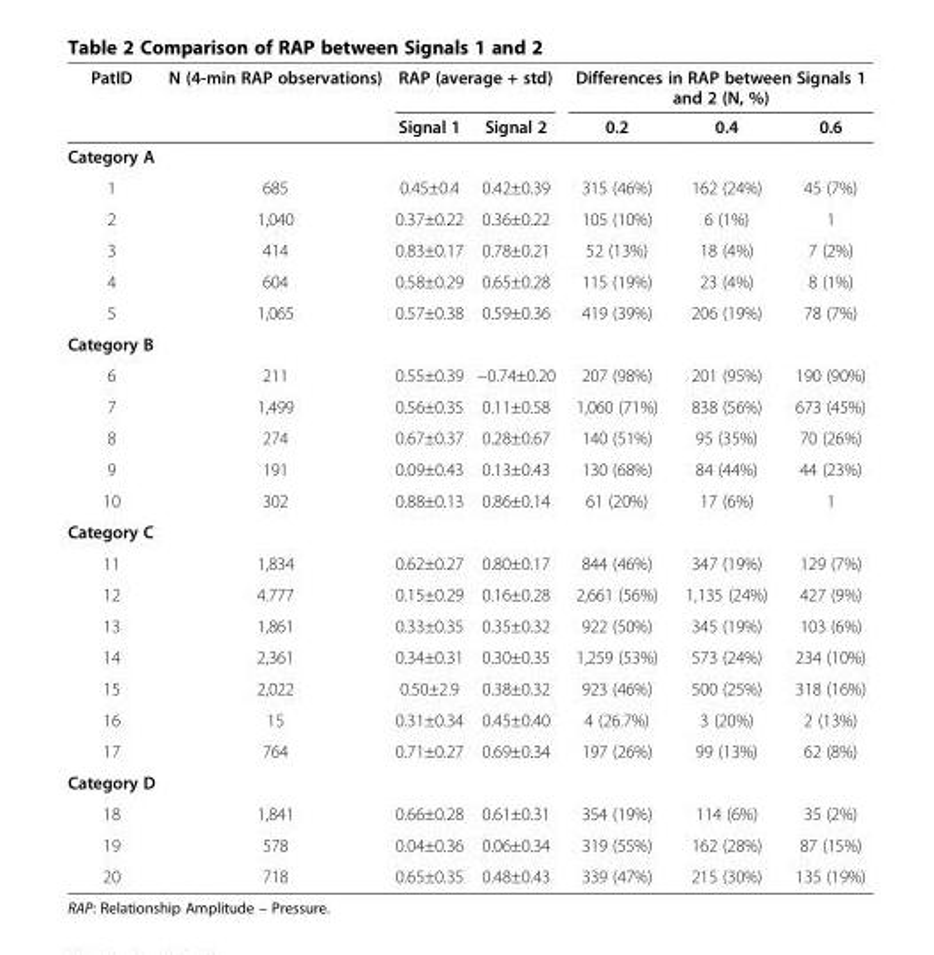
<table><thead><tr><td rowspan="2">PatID</td><td rowspan="2">N (4-min RAP observations)</td><td colspan="2">RAP (average + std)</td><td colspan="3">Differences in RAP between Signals 1 and 2 (N, %)</td></tr><tr><td>Signal 1</td><td>Signal 2</td><td>0.2</td><td>0.4</td><td>0.6</td></tr></thead><tbody><tr><td colspan="7">Category A</td></tr><tr><td>1</td><td>685</td><td>0.45±0.4</td><td>0.42±0.39</td><td>315 (46%)</td><td>162 (24%)</td><td>45 (7%)</td></tr><tr><td>2</td><td>1,040</td><td>0.37±0.22</td><td>0.36±0.22</td><td>105 (10%)</td><td>6 (1%)</td><td>1</td></tr><tr><td>3</td><td>414</td><td>0.83±0.17</td><td>0.78±0.21</td><td>52 (13%)</td><td>18 (4%)</td><td>7 (2%)</td></tr><tr><td>4</td><td>604</td><td>0.58±0.29</td><td>0.65±0.28</td><td>115 (19%)</td><td>23 (4%)</td><td>8 (1%)</td></tr><tr><td>5</td><td>1,065</td><td>0.57±0.38</td><td>0.59±0.36</td><td>419 (39%)</td><td>206 (19%)</td><td>78 (7%)</td></tr><tr><td colspan="7">Category B</td></tr><tr><td>6</td><td>211</td><td>0.55±0.39</td><td>−0.74±0.20</td><td>207 (98%)</td><td>201 (95%)</td><td>190 (90%)</td></tr><tr><td>7</td><td>1,499</td><td>0.56±0.35</td><td>0.11±0.58</td><td>1,060 (71%)</td><td>838 (56%)</td><td>673 (45%)</td></tr><tr><td>8</td><td>274</td><td>0.67±0.37</td><td>0.28±0.67</td><td>140 (51%)</td><td>95 (35%)</td><td>70 (26%)</td></tr><tr><td>9</td><td>191</td><td>0.09±0.43</td><td>0.13±0.43</td><td>130 (68%)</td><td>84 (44%)</td><td>44 (23%)</td></tr><tr><td>10</td><td>302</td><td>0.88±0.13</td><td>0.86±0.14</td><td>61 (20%)</td><td>17 (6%)</td><td>1</td></tr><tr><td colspan="7">Category C</td></tr><tr><td>11</td><td>1,834</td><td>0.62±0.27</td><td>0.80±0.17</td><td>844 (46%)</td><td>347 (19%)</td><td>129 (7%)</td></tr><tr><td>12</td><td>4.777</td><td>0.15±0.29</td><td>0.16±0.28</td><td>2,661 (56%)</td><td>1,135 (24%)</td><td>427 (9%)</td></tr><tr><td>13</td><td>1,861</td><td>0.33±0.35</td><td>0.35±0.32</td><td>922 (50%)</td><td>345 (19%)</td><td>103 (6%)</td></tr><tr><td>14</td><td>2,361</td><td>0.34±0.31</td><td>0.30±0.35</td><td>1,259 (53%)</td><td>573 (24%)</td><td>234 (10%)</td></tr><tr><td>15</td><td>2,022</td><td>0.50±2.9</td><td>0.38±0.32</td><td>923 (46%)</td><td>500 (25%)</td><td>318 (16%)</td></tr><tr><td>16</td><td>15</td><td>0.31±0.34</td><td>0.45±0.40</td><td>4 (26.7%)</td><td>3 (20%)</td><td>2 (13%)</td></tr><tr><td>17</td><td>764</td><td>0.71±0.27</td><td>0.69±0.34</td><td>197 (26%)</td><td>99 (13%)</td><td>62 (8%)</td></tr><tr><td colspan="7">Category D</td></tr><tr><td>18</td><td>1,841</td><td>0.66±0.28</td><td>0.61±0.31</td><td>354 (19%)</td><td>114 (6%)</td><td>35 (2%)</td></tr><tr><td>19</td><td>578</td><td>0.04±0.36</td><td>0.06±0.34</td><td>319 (55%)</td><td>162 (28%)</td><td>87 (15%)</td></tr><tr><td>20</td><td>718</td><td>0.65±0.35</td><td>0.48±0.43</td><td>339 (47%)</td><td>215 (30%)</td><td>135 (19%)</td></tr></tbody></table>